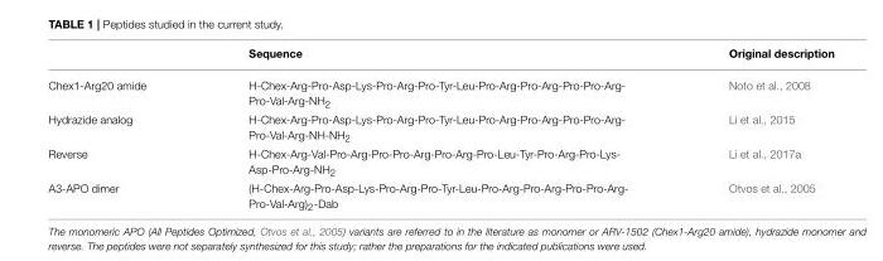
<table><thead><tr><td></td><td>Sequence</td><td>Original description</td></tr></thead><tbody><tr><td>Chex1-Arg20 amide</td><td>H-Chex-Arg-Pro-Asp-Lys-Pro-Arg-Pro-Tyr-Leu-Pro-Arg-Pro-Arg-Pro-Pro-Arg- Pro-Val-Arg-NH<sub>2</sub></td><td>Noto et al., 2008</td></tr><tr><td>Hydrazide analog</td><td>H-Chex-Arg-Pro-Asp-Lys-Pro-Arg-Pro-Tyr-Leu-Pro-Arg-Pro-Arg-Pro-Pro-Arg- Pro-Val-Arg-NH-NH<sub>2</sub></td><td>Li et al., 2015</td></tr><tr><td>Reverse</td><td>H-Chex-Arg-Val-Pro-Arg-Pro-Pro-Arg-Pro-Arg-Pro-Leu-Tyr-Pro-Arg-Pro-Lys- Asp-Pro-Arg-NH<sub>2</sub></td><td>Li et al., 2017a</td></tr><tr><td>A3-APO dimer</td><td>(H-Chex-Arg-Pro-Asp-Lys-Pro-Arg-Pro-Tyr-Leu-Pro-Arg-Pro-Arg-Pro-Pro-Arg- Pro-Val-Arg)<sub>2</sub>-Dab</td><td>Otvos et al., 2005</td></tr></tbody></table>